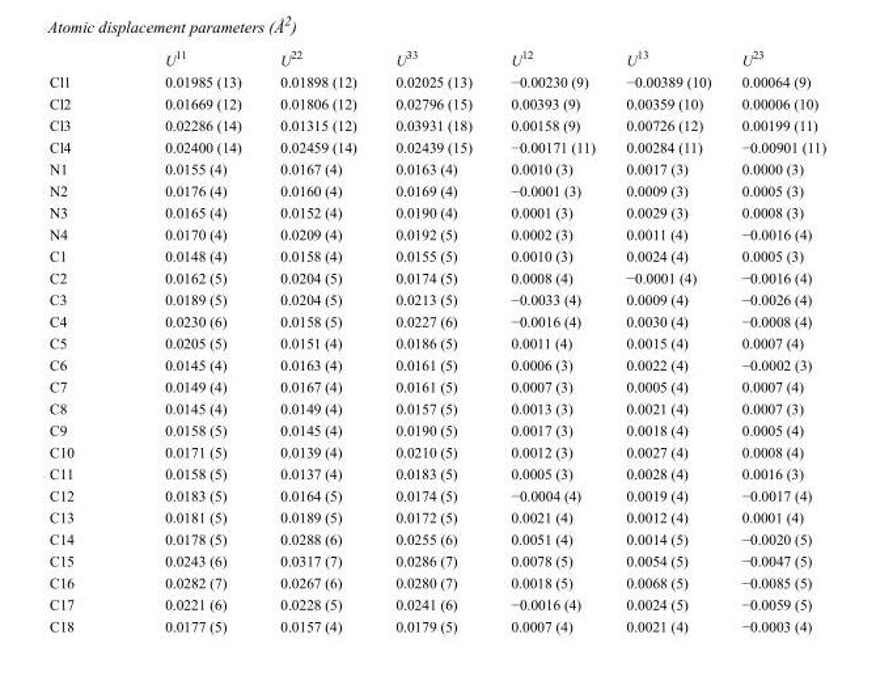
<table><thead><tr><td></td><td>U<sup>11</sup></td><td>U<sup>22</sup></td><td>U<sup>33</sup></td><td>U<sup>12</sup></td><td>U<sup>13</sup></td><td>U<sup>23</sup></td></tr></thead><tbody><tr><td>Cl1</td><td>0.01985 (13)</td><td>0.01898 (12)</td><td>0.02025 (13)</td><td>−0.00230 (9)</td><td>−0.00389 (10)</td><td>0.00064 (9)</td></tr><tr><td>Cl2</td><td>0.01669 (12)</td><td>0.01806 (12)</td><td>0.02796 (15)</td><td>0.00393 (9)</td><td>0.00359 (10)</td><td>0.00006 (10)</td></tr><tr><td>Cl3</td><td>0.02286 (14)</td><td>0.01315 (12)</td><td>0.03931 (18)</td><td>0.00158 (9)</td><td>0.00726 (12)</td><td>0.00199 (11)</td></tr><tr><td>Cl4</td><td>0.02400 (14)</td><td>0.02459 (14)</td><td>0.02439 (15)</td><td>−0.00171 (11)</td><td>0.00284 (11)</td><td>−0.00901 (11)</td></tr><tr><td>N1</td><td>0.0155 (4)</td><td>0.0167 (4)</td><td>0.0163 (4)</td><td>0.0010 (3)</td><td>0.0017 (3)</td><td>0.0000 (3)</td></tr><tr><td>N2</td><td>0.0176 (4)</td><td>0.0160 (4)</td><td>0.0169 (4)</td><td>−0.0001 (3)</td><td>0.0009 (3)</td><td>0.0005 (3)</td></tr><tr><td>N3</td><td>0.0165 (4)</td><td>0.0152 (4)</td><td>0.0190 (4)</td><td>0.0001 (3)</td><td>0.0029 (3)</td><td>0.0008 (3)</td></tr><tr><td>N4</td><td>0.0170 (4)</td><td>0.0209 (4)</td><td>0.0192 (5)</td><td>0.0002 (3)</td><td>0.0011 (4)</td><td>−0.0016 (4)</td></tr><tr><td>C1</td><td>0.0148 (4)</td><td>0.0158 (4)</td><td>0.0155 (5)</td><td>0.0010 (3)</td><td>0.0024 (4)</td><td>0.0005 (3)</td></tr><tr><td>C2</td><td>0.0162 (5)</td><td>0.0204 (5)</td><td>0.0174 (5)</td><td>0.0008 (4)</td><td>−0.0001 (4)</td><td>−0.0016 (4)</td></tr><tr><td>C3</td><td>0.0189 (5)</td><td>0.0204 (5)</td><td>0.0213 (5)</td><td>−0.0033 (4)</td><td>0.0009 (4)</td><td>−0.0026 (4)</td></tr><tr><td>C4</td><td>0.0230 (6)</td><td>0.0158 (5)</td><td>0.0227 (6)</td><td>−0.0016 (4)</td><td>0.0030 (4)</td><td>−0.0008 (4)</td></tr><tr><td>C5</td><td>0.0205 (5)</td><td>0.0151 (4)</td><td>0.0186 (5)</td><td>0.0011 (4)</td><td>0.0015 (4)</td><td>0.0007 (4)</td></tr><tr><td>C6</td><td>0.0145 (4)</td><td>0.0163 (4)</td><td>0.0161 (5)</td><td>0.0006 (3)</td><td>0.0022 (4)</td><td>−0.0002 (3)</td></tr><tr><td>C7</td><td>0.0149 (4)</td><td>0.0167 (4)</td><td>0.0161 (5)</td><td>0.0007 (3)</td><td>0.0005 (4)</td><td>0.0007 (4)</td></tr><tr><td>C8</td><td>0.0145 (4)</td><td>0.0149 (4)</td><td>0.0157 (5)</td><td>0.0013 (3)</td><td>0.0021 (4)</td><td>0.0007 (3)</td></tr><tr><td>C9</td><td>0.0158 (5)</td><td>0.0145 (4)</td><td>0.0190 (5)</td><td>0.0017 (3)</td><td>0.0018 (4)</td><td>0.0005 (4)</td></tr><tr><td>C10</td><td>0.0171 (5)</td><td>0.0139 (4)</td><td>0.0210 (5)</td><td>0.0012 (3)</td><td>0.0027 (4)</td><td>0.0008 (4)</td></tr><tr><td>C11</td><td>0.0158 (5)</td><td>0.0137 (4)</td><td>0.0183 (5)</td><td>0.0005 (3)</td><td>0.0028 (4)</td><td>0.0016 (3)</td></tr><tr><td>C12</td><td>0.0183 (5)</td><td>0.0164 (5)</td><td>0.0174 (5)</td><td>−0.0004 (4)</td><td>0.0019 (4)</td><td>−0.0017 (4)</td></tr><tr><td>C13</td><td>0.0181 (5)</td><td>0.0189 (5)</td><td>0.0172 (5)</td><td>0.0021 (4)</td><td>0.0012 (4)</td><td>0.0001 (4)</td></tr><tr><td>C14</td><td>0.0178 (5)</td><td>0.0288 (6)</td><td>0.0255 (6)</td><td>0.0051 (4)</td><td>0.0014 (5)</td><td>−0.0020 (5)</td></tr><tr><td>C15</td><td>0.0243 (6)</td><td>0.0317 (7)</td><td>0.0286 (7)</td><td>0.0078 (5)</td><td>0.0054 (5)</td><td>−0.0047 (5)</td></tr><tr><td>C16</td><td>0.0282 (7)</td><td>0.0267 (6)</td><td>0.0280 (7)</td><td>0.0018 (5)</td><td>0.0068 (5)</td><td>−0.0085 (5)</td></tr><tr><td>C17</td><td>0.0221 (6)</td><td>0.0228 (5)</td><td>0.0241 (6)</td><td>−0.0016 (4)</td><td>0.0024 (5)</td><td>−0.0059 (5)</td></tr><tr><td>C18</td><td>0.0177 (5)</td><td>0.0157 (4)</td><td>0.0179 (5)</td><td>0.0007 (4)</td><td>0.0021 (4)</td><td>−0.0003 (4)</td></tr></tbody></table>